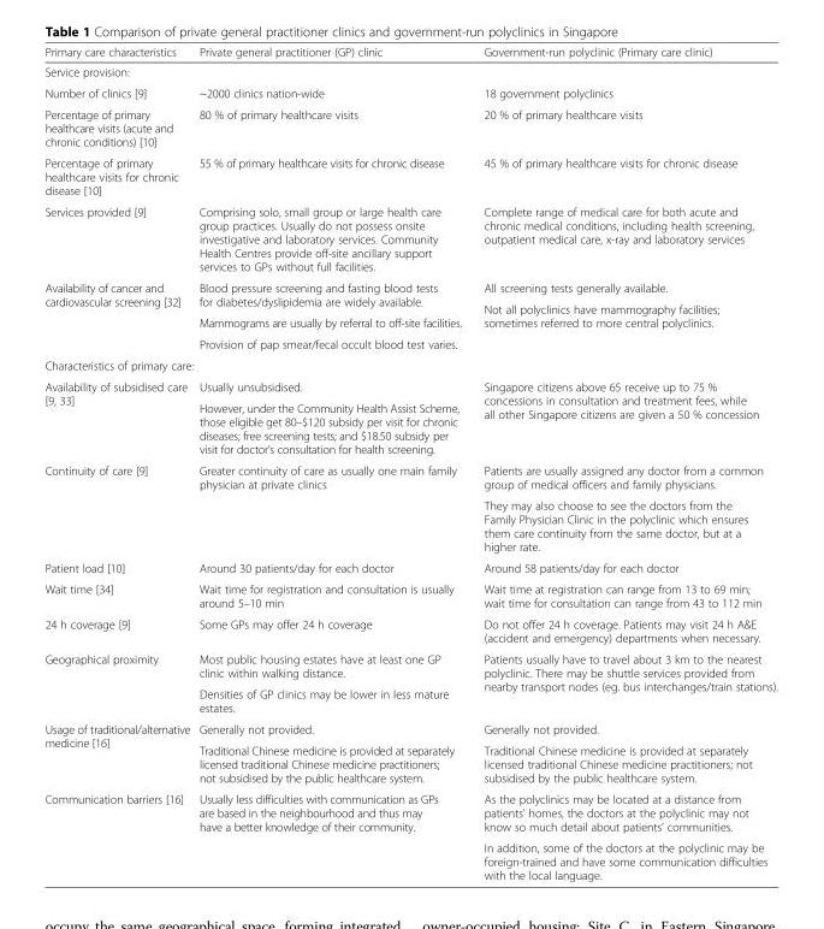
<table><thead><tr><td>Primary care characteristics</td><td>Private general practitioner (GP) clinic</td><td>Government-run polyclinic (Primary care clinic)</td></tr></thead><tbody><tr><td colspan="3">Service provision:</td></tr><tr><td>Number of clinics [9]</td><td>~2000 clinics nation-wide</td><td>18 government polyclinics</td></tr><tr><td>Percentage of primary healthcare visits (acute and chronic conditions) [10]</td><td>80 % of primary healthcare visits</td><td>20 % of primary healthcare visits</td></tr><tr><td>Percentage of primary healthcare visits for chronic disease [10]</td><td>55 % of primary healthcare visits for chronic disease</td><td>45 % of primary healthcare visits for chronic disease</td></tr><tr><td>Services provided [9]</td><td>Comprising solo, small group or large health care group practices. Usually do not possess onsite investigative and laboratory services. Community Health Centres provide off-site ancillary support services to GPs without full facilities.</td><td>Complete range of medical care for both acute and chronic medical conditions, including health screening, outpatient medical care, x-ray and laboratory services</td></tr><tr><td rowspan="4">Availability of cancer and cardiovascular screening [32]</td><td rowspan="2">Blood pressure screening and fasting blood tests for diabetes/dyslipidemia are widely available.</td><td>All screening tests generally available.</td></tr><tr><td rowspan="3">Not all polyclinics have mammography facilities; sometimes referred to more central polyclinics.</td></tr><tr><td>Mammograms are usually by referral to off-site facilities.</td></tr><tr><td>Provision of pap smear/fecal occult blood test varies.</td></tr><tr><td colspan="3">Characteristics of primary care:</td></tr><tr><td rowspan="2">Availability of subsidised care [9, 33]</td><td>Usually unsubsidised.</td><td rowspan="2">Singapore citizens above 65 receive up to 75 % concessions in consultation and treatment fees, while all other Singapore citizens are given a 50 % concession</td></tr><tr><td>However, under the Community Health Assist Scheme, those eligible get 80–$120 subsidy per visit for chronic diseases; free screening tests; and $18.50 subsidy per visit for doctor’s consultation for health screening.</td></tr><tr><td rowspan="2">Continuity of care [9]</td><td rowspan="2">Greater continuity of care as usually one main family physician at private clinics</td><td>Patients are usually assigned any doctor from a common group of medical officers and family physicians.</td></tr><tr><td>They may also choose to see the doctors from the Family Physician Clinic in the polyclinic which ensures them care continuity from the same doctor, but at a higher rate.</td></tr><tr><td>Patient load [10]</td><td>Around 30 patients/day for each doctor</td><td>Around 58 patients/day for each doctor</td></tr><tr><td>Wait time [34]</td><td>Wait time for registration and consultation is usually around 5–10 min</td><td>Wait time at registration can range from 13 to 69 min; wait time for consultation can range from 43 to 112 min</td></tr><tr><td>24 h coverage [9]</td><td>Some GPs may offer 24 h coverage</td><td>Do not offer 24 h coverage. Patients may visit 24 h A&amp;E (accident and emergency) departments when necessary.</td></tr><tr><td rowspan="2">Geographical proximity</td><td>Most public housing estates have at least one GP clinic within walking distance.</td><td rowspan="2">Patients usually have to travel about 3 km to the nearest polyclinic. There may be shuttle services provided from nearby transport nodes (eg. bus interchanges/train stations).</td></tr><tr><td>Densities of GP clinics may be lower in less mature estates.</td></tr><tr><td rowspan="2">Usage of traditional/alternative medicine [16]</td><td>Generally not provided.</td><td>Generally not provided.</td></tr><tr><td>Traditional Chinese medicine is provided at separately licensed traditional Chinese medicine practitioners; not subsidised by the public healthcare system.</td><td>Traditional Chinese medicine is provided at separately licensed traditional Chinese medicine practitioners; not subsidised by the public healthcare system.</td></tr><tr><td rowspan="2">Communication barriers [16]</td><td rowspan="2">Usually less difficulties with communication as GPs are based in the neighbourhood and thus may have a better knowledge of their community.</td><td>As the polyclinics may be located at a distance from patients’ homes, the doctors at the polyclinic may not know so much detail about patients’ communities.</td></tr><tr><td>In addition, some of the doctors at the polyclinic may be foreign-trained and have some communication difficulties with the local language.</td></tr></tbody></table>